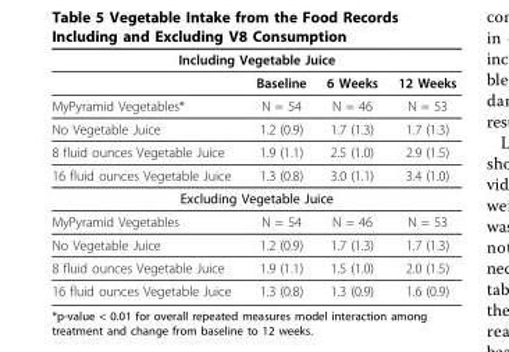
<table><thead><tr><td colspan="4">Including Vegetable Juice</td></tr><tr><td></td><td>Baseline</td><td>6 Weeks</td><td>12 Weeks</td></tr></thead><tbody><tr><td>MyPyramid Vegetables*</td><td>N = 54</td><td>N = 46</td><td>N = 53</td></tr><tr><td>No Vegetable Juice</td><td>1.2 (0.9)</td><td>1.7 (1.3)</td><td>1.7 (1.3)</td></tr><tr><td>8 fluid ounces Vegetable Juice</td><td>1.9 (1.1)</td><td>2.5 (1.0)</td><td>2.9 (1.5)</td></tr><tr><td>16 fluid ounces Vegetable Juice</td><td>1.3 (0.8)</td><td>3.0 (1.1)</td><td>3.4 (1.0)</td></tr><tr><td colspan="4">Excluding Vegetable Juice</td></tr><tr><td>MyPyramid Vegetables</td><td>N = 54</td><td>N = 46</td><td>N = 53</td></tr><tr><td>No Vegetable Juice</td><td>1.2 (0.9)</td><td>1.7 (1.3)</td><td>1.7 (1.3)</td></tr><tr><td>8 fluid ounces Vegetable Juice</td><td>1.9 (1.1)</td><td>1.5 (1.0)</td><td>2.0 (1.5)</td></tr><tr><td>16 fluid ounces Vegetable Juice</td><td>1.3 (0.8)</td><td>1.3 (0.9)</td><td>1.6 (0.9)</td></tr></tbody></table>